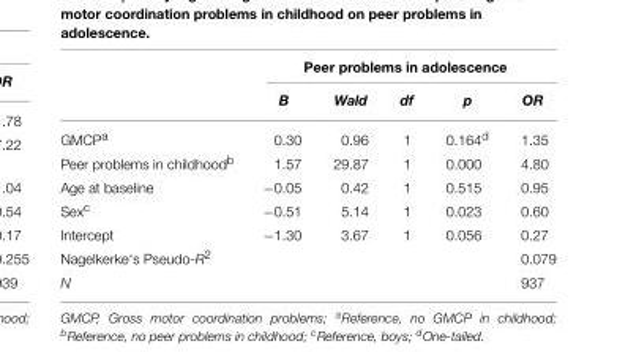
<table><thead><tr><td rowspan="2"></td><td colspan="5">Peer problems in adolescence</td></tr><tr><td>B</td><td>Wald</td><td>df</td><td>p</td><td>OR</td></tr></thead><tbody><tr><td>GMCP<sup>a</sup></td><td>0.30</td><td>0.96</td><td>1</td><td>0.164<sup>d</sup></td><td>1.35</td></tr><tr><td>Peer problems in childhood<sup>b</sup></td><td>1.57</td><td>29.87</td><td>1</td><td>0.000</td><td>4.80</td></tr><tr><td>Age at baseline</td><td>−0.05</td><td>0.42</td><td>1</td><td>0.515</td><td>0.95</td></tr><tr><td>Sex<sup>c</sup></td><td>−0.51</td><td>5.14</td><td>1</td><td>0.023</td><td>0.60</td></tr><tr><td>Intercept</td><td>−1.30</td><td>3.67</td><td>1</td><td>0.056</td><td>0.27</td></tr><tr><td>Nagelkerke‘s Pseudo-R<sup>2</sup></td><td></td><td></td><td></td><td></td><td>0.079</td></tr><tr><td>N</td><td></td><td></td><td></td><td></td><td>937</td></tr></tbody></table>